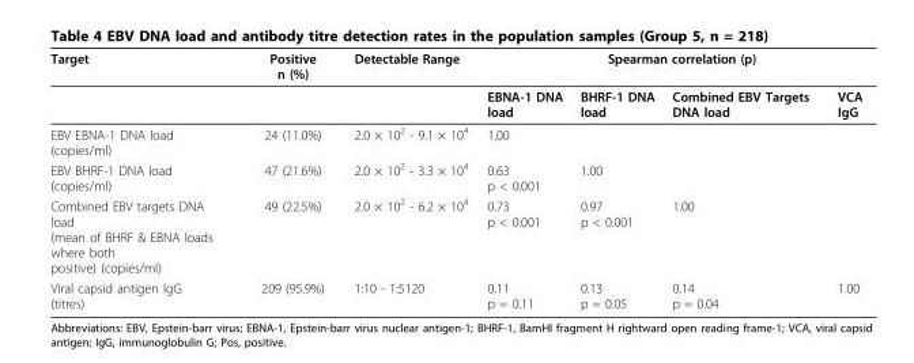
<table><thead><tr><td rowspan="2">Target</td><td rowspan="2">Positive n (%)</td><td rowspan="2">Detectable Range</td><td colspan="4">Spearman correlation (p)</td></tr><tr><td>EBNA-1 DNA load</td><td>BHRF-1 DNA load</td><td>Combined EBV Targets DNA load</td><td>VCA IgG</td></tr></thead><tbody><tr><td>EBV EBNA-1 DNA load (copies/ml)</td><td>24 (11.0%)</td><td>2.0 × 10<sup>2</sup> - 9.1 × 10<sup>4</sup></td><td>1.00</td><td></td><td></td><td></td></tr><tr><td>EBV BHRF-1 DNA load (copies/ml)</td><td>47 (21.6%)</td><td>2.0 × 10<sup>2</sup> - 3.3 × 10<sup>4</sup></td><td>0.63 p &lt; 0.001</td><td>1.00</td><td></td><td></td></tr><tr><td>Combined EBV targets DNA load (mean of BHRF &amp; EBNA loads where both positive) (copies/ml)</td><td>49 (22.5%)</td><td>2.0 × 10<sup>2</sup> - 6.2 × 10<sup>4</sup></td><td>0.73 p &lt; 0.001</td><td>0.97 p &lt; 0.001</td><td>1.00</td><td></td></tr><tr><td>Viral capsid antigen IgG (titres)</td><td>209 (95.9%)</td><td>1:10 - 1:5120</td><td>0.11 p = 0.11</td><td>0.13 p = 0.05</td><td>0.14 p = 0.04</td><td>1.00</td></tr></tbody></table>